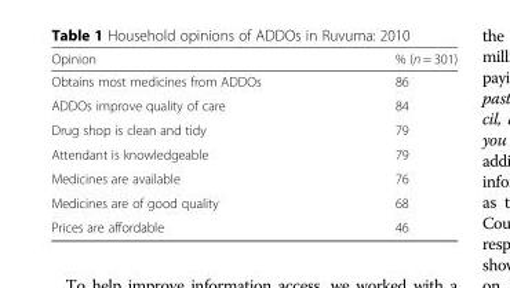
<table><thead><tr><td>Opinion</td><td>% (n = 301)</td></tr></thead><tbody><tr><td>Obtains most medicines from ADDOs</td><td>86</td></tr><tr><td>ADDOs improve quality of care</td><td>84</td></tr><tr><td>Drug shop is clean and tidy</td><td>79</td></tr><tr><td>Attendant is knowledgeable</td><td>79</td></tr><tr><td>Medicines are available</td><td>76</td></tr><tr><td>Medicines are of good quality</td><td>68</td></tr><tr><td>Prices are affordable</td><td>46</td></tr></tbody></table>